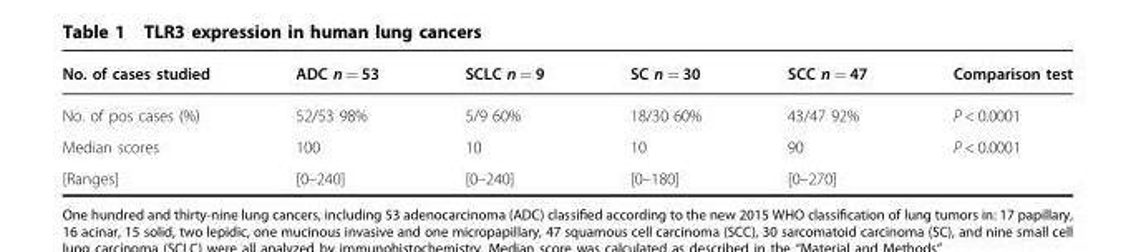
<table><thead><tr><td>No. of cases studied</td><td>ADC n = 53</td><td>SCLC n = 9</td><td>SC n = 30</td><td>SCC n = 47</td><td>Comparison test</td></tr></thead><tbody><tr><td>No. of pos cases (%)</td><td>52/53 98%</td><td>5/9 60%</td><td>18/30 60%</td><td>43/47 92%</td><td>P &lt; 0.0001</td></tr><tr><td>Median scores</td><td>100</td><td>10</td><td>10</td><td>90</td><td>P &lt; 0.0001</td></tr><tr><td>[Ranges]</td><td>[0–240]</td><td>[0–240]</td><td>[0–180]</td><td>[0–270]</td><td></td></tr></tbody></table>